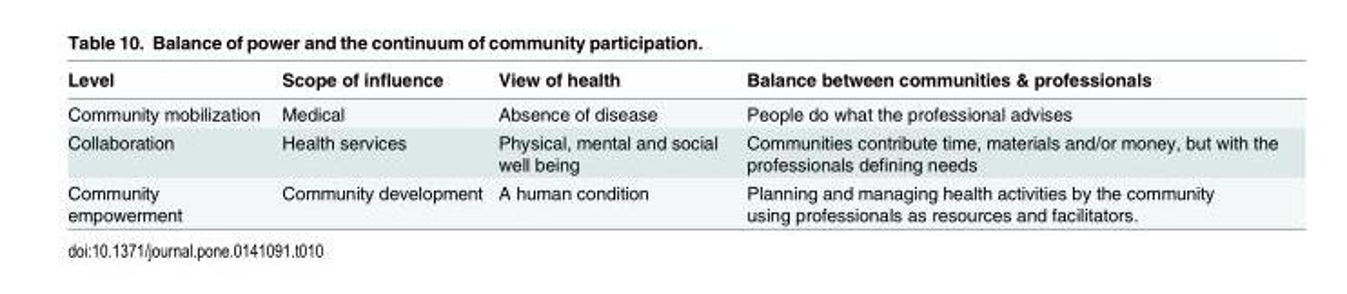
<table><thead><tr><td>Level</td><td>Scope of influence</td><td>View of health</td><td>Balance between communities &amp; professionals</td></tr></thead><tbody><tr><td>Community mobilization</td><td>Medical</td><td>Absence of disease</td><td>People do what the professional advises</td></tr><tr><td>Collaboration</td><td>Health services</td><td>Physical, mental and social well being</td><td>Communities contribute time, materials and/or money, but with the professionals defining needs</td></tr><tr><td>Community empowerment</td><td>Community development</td><td>A human condition</td><td>Planning and managing health activities by the community using professionals as resources and facilitators.</td></tr></tbody></table>